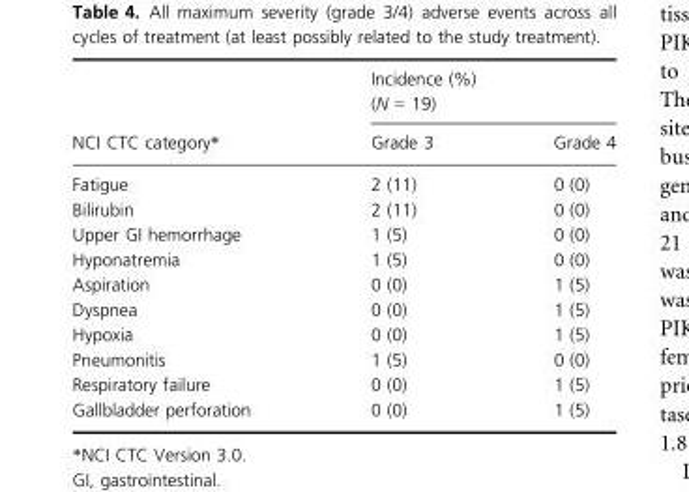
<table><thead><tr><td rowspan="2">NCI CTC category*</td><td colspan="2">Incidence (%) (N = 19)</td></tr><tr><td>Grade 3</td><td>Grade 4</td></tr></thead><tbody><tr><td>Fatigue</td><td>2 (11)</td><td>0 (0)</td></tr><tr><td>Bilirubin</td><td>2 (11)</td><td>0 (0)</td></tr><tr><td>Upper GI hemorrhage</td><td>1 (5)</td><td>0 (0)</td></tr><tr><td>Hyponatremia</td><td>1 (5)</td><td>0 (0)</td></tr><tr><td>Aspiration</td><td>0 (0)</td><td>1 (5)</td></tr><tr><td>Dyspnea</td><td>0 (0)</td><td>1 (5)</td></tr><tr><td>Hypoxia</td><td>0 (0)</td><td>1 (5)</td></tr><tr><td>Pneumonitis</td><td>1 (5)</td><td>0 (0)</td></tr><tr><td>Respiratory failure</td><td>0 (0)</td><td>1 (5)</td></tr><tr><td>Gallbladder perforation</td><td>0 (0)</td><td>1 (5)</td></tr></tbody></table>